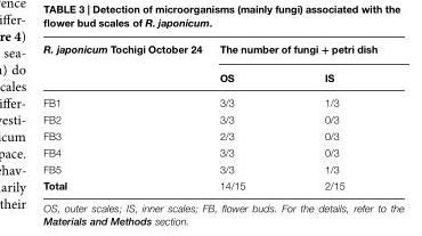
<table><thead><tr><td rowspan="2">R. japonicum Tochigi October 24</td><td colspan="2">The number of fungi + petri dish</td></tr><tr><td>OS</td><td>IS</td></tr></thead><tbody><tr><td>FB1</td><td>3/3</td><td>1/3</td></tr><tr><td>FB2</td><td>3/3</td><td>0/3</td></tr><tr><td>FB3</td><td>2/3</td><td>0/3</td></tr><tr><td>FB4</td><td>3/3</td><td>0/3</td></tr><tr><td>FB5</td><td>3/3</td><td>1/3</td></tr><tr><td>Total</td><td>14/15</td><td>2/15</td></tr></tbody></table>